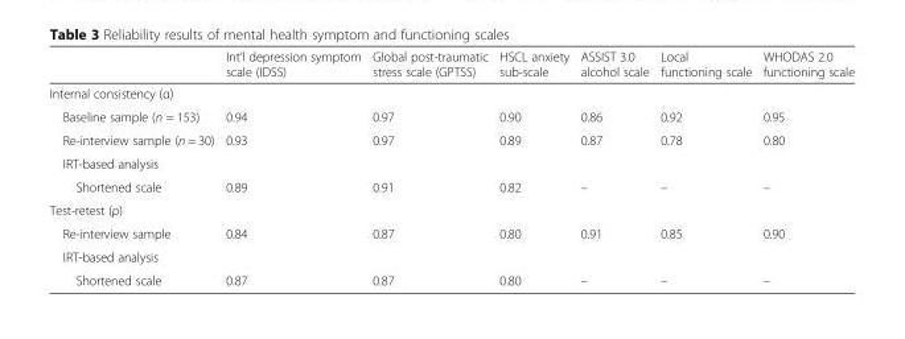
<table><thead><tr><td></td><td>Int’l depression symptom scale (IDSS)</td><td>Global post-traumatic stress scale (GPTSS)</td><td>HSCL anxiety sub-scale</td><td>ASSIST 3.0 alcohol scale</td><td>Local functioning scale</td><td>WHODAS 2.0 functioning scale</td></tr></thead><tbody><tr><td colspan="7">Internal consistency (α)</td></tr><tr><td>Baseline sample (n = 153)</td><td>0.94</td><td>0.97</td><td>0.90</td><td>0.86</td><td>0.92</td><td>0.95</td></tr><tr><td>Re-interview sample (n = 30)</td><td>0.93</td><td>0.97</td><td>0.89</td><td>0.87</td><td>0.78</td><td>0.80</td></tr><tr><td colspan="7">IRT-based analysis</td></tr><tr><td>Shortened scale</td><td>0.89</td><td>0.91</td><td>0.82</td><td>–</td><td>–</td><td>–</td></tr><tr><td colspan="7">Test-retest (ρ)</td></tr><tr><td>Re-interview sample</td><td>0.84</td><td>0.87</td><td>0.80</td><td>0.91</td><td>0.85</td><td>0.90</td></tr><tr><td colspan="7">IRT-based analysis</td></tr><tr><td>Shortened scale</td><td>0.87</td><td>0.87</td><td>0.80</td><td>–</td><td>–</td><td>–</td></tr></tbody></table>